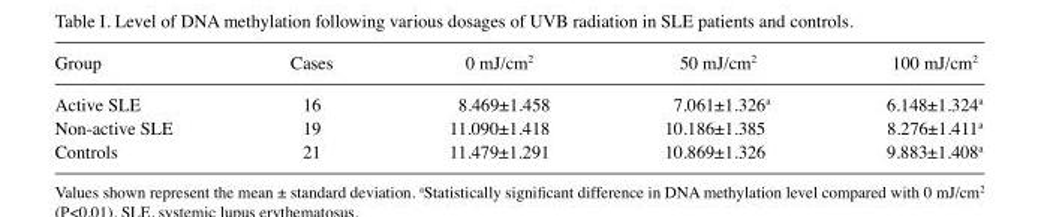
<table><thead><tr><td>Group</td><td>Cases</td><td>0 mJ/cm<sup>2</sup></td><td>50 mJ/cm<sup>2</sup></td><td>100 mJ/cm<sup>2</sup></td></tr></thead><tbody><tr><td>Active SLE</td><td>16</td><td>8.469±1.458</td><td>7.061±1.326<sup>a</sup></td><td>6.148±1.324<sup>a</sup></td></tr><tr><td>Non-active SLE</td><td>19</td><td>11.090±1.418</td><td>10.186±1.385</td><td>8.276±1.411<sup>a</sup></td></tr><tr><td>Controls</td><td>21</td><td>11.479±1.291</td><td>10.869±1.326</td><td>9.883±1.408<sup>a</sup></td></tr></tbody></table>